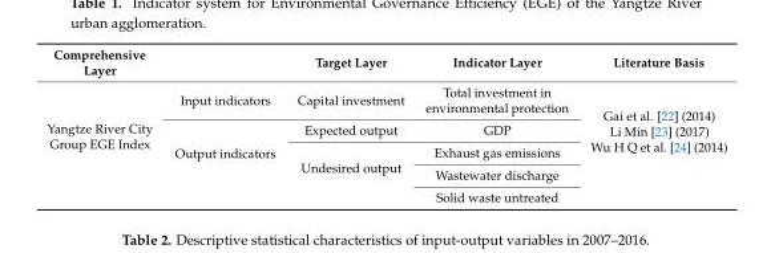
<table><thead><tr><td>Comprehensive Layer</td><td></td><td>Target Layer</td><td>Indicator Layer</td><td>Literature Basis</td></tr></thead><tbody><tr><td rowspan="5">Yangtze River City Group EGE Index</td><td>Input indicators</td><td>Capital investment</td><td>Total investment in environmental protection</td><td rowspan="5">Gai et al. [22] (2014) Li Min [23] (2017) Wu H Q et al. [24] (2014)</td></tr><tr><td rowspan="4">Output indicators</td><td>Expected output</td><td>GDP</td></tr><tr><td rowspan="3">Undesired output</td><td>Exhaust gas emissions</td></tr><tr><td>Wastewater discharge</td></tr><tr><td>Solid waste untreated</td></tr></tbody></table>